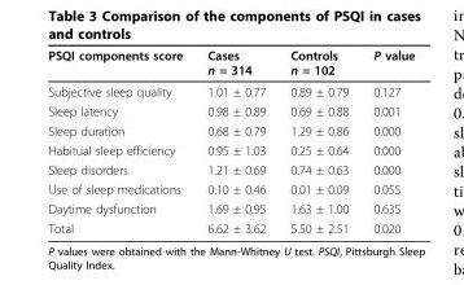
<table><thead><tr><td>PSQI components score</td><td>Cases n = 314</td><td>Controls n = 102</td><td>P value</td></tr></thead><tbody><tr><td>Subjective sleep quality</td><td>1.01 ± 0.77</td><td>0.89 ± 0.79</td><td>0.127</td></tr><tr><td>Sleep latency</td><td>0.98 ± 0.89</td><td>0.69 ± 0.88</td><td>0.001</td></tr><tr><td>Sleep duration</td><td>0.68 ± 0.79</td><td>1.29 ± 0.86</td><td>0.000</td></tr><tr><td>Habitual sleep efficiency</td><td>0.95 ± 1.03</td><td>0.25 ± 0.64</td><td>0.000</td></tr><tr><td>Sleep disorders</td><td>1.21 ± 0.69</td><td>0.74 ± 0.63</td><td>0.000</td></tr><tr><td>Use of sleep medications</td><td>0.10 ± 0.46</td><td>0.01 ± 0.09</td><td>0.055</td></tr><tr><td>Daytime dysfunction</td><td>1.69 ± 0.95</td><td>1.63 ± 1.00</td><td>0.635</td></tr><tr><td>Total</td><td>6.62 ± 3.62</td><td>5.50 ± 2.51</td><td>0.020</td></tr></tbody></table>